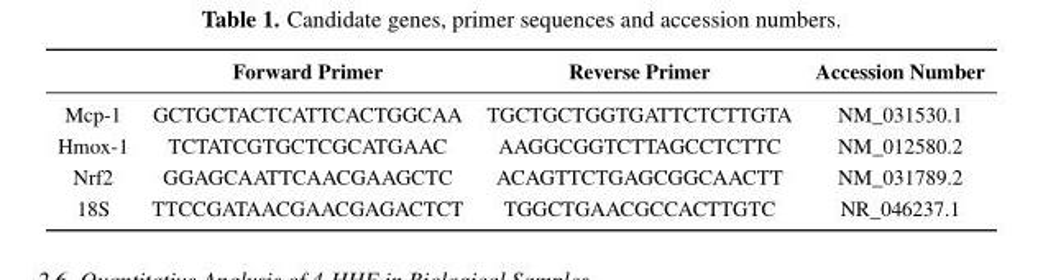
<table><thead><tr><td></td><td>Forward Primer</td><td>Reverse Primer</td><td>Accession Number</td></tr></thead><tbody><tr><td>Mcp-1</td><td>GCTGCTACTCATTCACTGGCAA</td><td>TGCTGCTGGTGATTCTCTTGTA</td><td>NM_031530.1</td></tr><tr><td>Hmox-1</td><td>TCTATCGTGCTCGCATGAAC</td><td>AAGGCGGTCTTAGCCTCTTC</td><td>NM_012580.2</td></tr><tr><td>Nrf2</td><td>GGAGCAATTCAACGAAGCTC</td><td>ACAGTTCTGAGCGGCAACTT</td><td>NM_031789.2</td></tr><tr><td>18S</td><td>TTCCGATAACGAACGAGACTCT</td><td>TGGCTGAACGCCACTTGTC</td><td>NR_046237.1</td></tr></tbody></table>